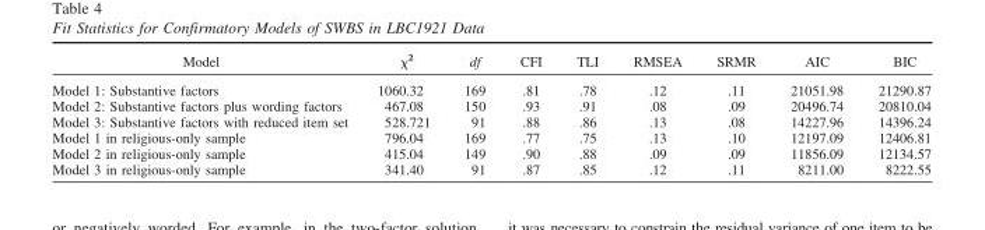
<table><thead><tr><td>Model</td><td>χ<sup>2</sup></td><td>df</td><td>CFI</td><td>TLI</td><td>RMSEA</td><td>SRMR</td><td>AIC</td><td>BIC</td></tr></thead><tbody><tr><td>Model 1: Substantive factors</td><td>1060.32</td><td>169</td><td>.81</td><td>.78</td><td>.12</td><td>.11</td><td>21051.98</td><td>21290.87</td></tr><tr><td>Model 2: Substantive factors plus wording factors</td><td>467.08</td><td>150</td><td>.93</td><td>.91</td><td>.08</td><td>.09</td><td>20496.74</td><td>20810.04</td></tr><tr><td>Model 3: Substantive factors with reduced item set</td><td>528.721</td><td>91</td><td>.88</td><td>.86</td><td>.13</td><td>.08</td><td>14227.96</td><td>14396.24</td></tr><tr><td>Model 1 in religious-only sample</td><td>796.04</td><td>169</td><td>.77</td><td>.75</td><td>.13</td><td>.10</td><td>12197.09</td><td>12406.81</td></tr><tr><td>Model 2 in religious-only sample</td><td>415.04</td><td>149</td><td>.90</td><td>.88</td><td>.09</td><td>.09</td><td>11856.09</td><td>12134.57</td></tr><tr><td>Model 3 in religious-only sample</td><td>341.40</td><td>91</td><td>.87</td><td>.85</td><td>.12</td><td>.11</td><td>8211.00</td><td>8222.55</td></tr></tbody></table>